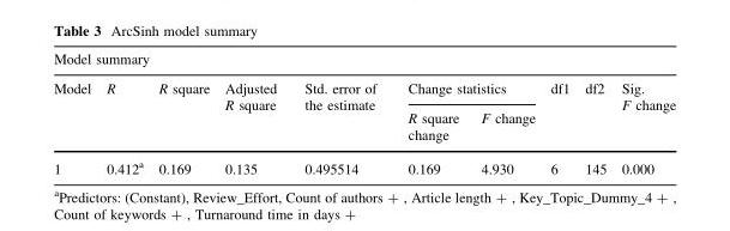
<table><thead><tr><td colspan="10">Model summary</td></tr><tr><td rowspan="2">Model</td><td rowspan="2">R</td><td rowspan="2">R square</td><td rowspan="2">Adjusted R square</td><td rowspan="2">Std. error of the estimate</td><td colspan="2">Change statistics</td><td rowspan="2">df1</td><td rowspan="2">df2</td><td rowspan="2">Sig. F change</td></tr><tr><td>R square change</td><td>F change</td></tr></thead><tbody><tr><td>1</td><td>0.412<sup>a</sup></td><td>0.169</td><td>0.135</td><td>0.495514</td><td>0.169</td><td>4.930</td><td>6</td><td>145</td><td>0.000</td></tr></tbody></table>